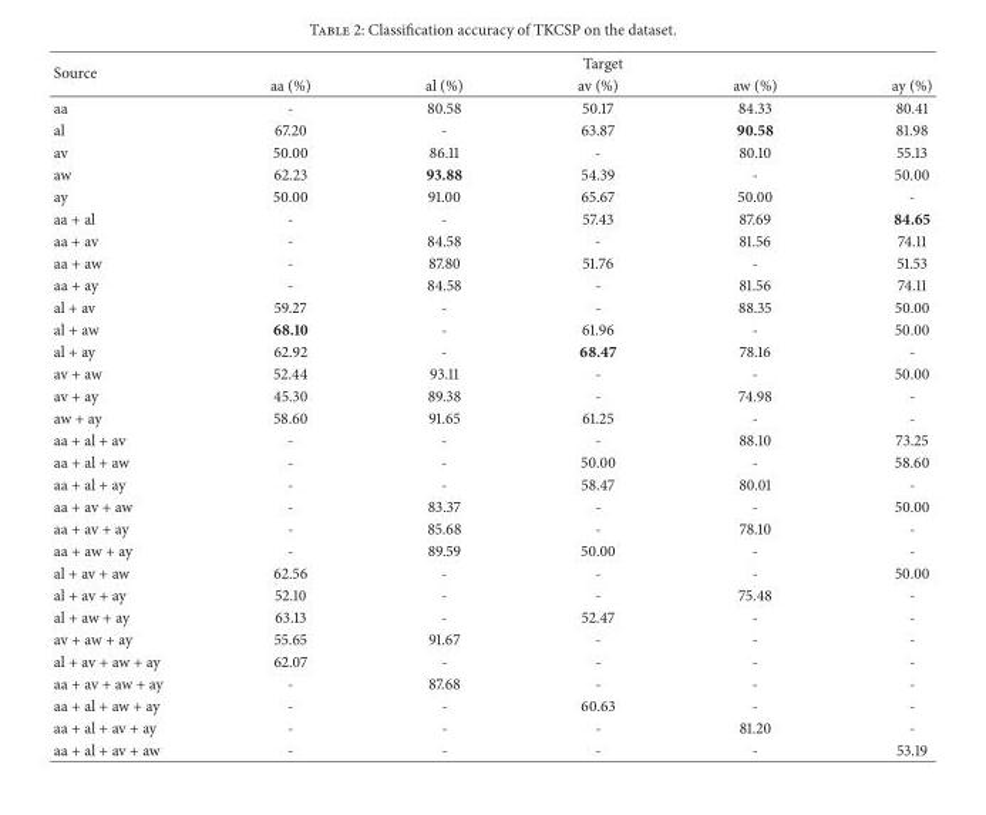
<table><thead><tr><td rowspan="2">Source</td><td colspan="5">Target</td></tr><tr><td>aa (%)</td><td>al (%)</td><td>av (%)</td><td>aw (%)</td><td>ay (%)</td></tr></thead><tbody><tr><td>aa</td><td>-</td><td>80.58</td><td>50.17</td><td>84.33</td><td>80.41</td></tr><tr><td>al</td><td>67.20</td><td>-</td><td>63.87</td><td>90.58</td><td>81.98</td></tr><tr><td>av</td><td>50.00</td><td>86.11</td><td>-</td><td>80.10</td><td>55.13</td></tr><tr><td>aw</td><td>62.23</td><td>93.88</td><td>54.39</td><td>-</td><td>50.00</td></tr><tr><td>ay</td><td>50.00</td><td>91.00</td><td>65.67</td><td>50.00</td><td>-</td></tr><tr><td>aa + al</td><td>-</td><td>-</td><td>57.43</td><td>87.69</td><td>84.65</td></tr><tr><td>aa + av</td><td>-</td><td>84.58</td><td>-</td><td>81.56</td><td>74.11</td></tr><tr><td>aa + aw</td><td>-</td><td>87.80</td><td>51.76</td><td>-</td><td>51.53</td></tr><tr><td>aa + ay</td><td>-</td><td>84.58</td><td>-</td><td>81.56</td><td>74.11</td></tr><tr><td>al + av</td><td>59.27</td><td>-</td><td>-</td><td>88.35</td><td>50.00</td></tr><tr><td>al + aw</td><td>68.10</td><td>-</td><td>61.96</td><td>-</td><td>50.00</td></tr><tr><td>al + ay</td><td>62.92</td><td>-</td><td>68.47</td><td>78.16</td><td>-</td></tr><tr><td>av + aw</td><td>52.44</td><td>93.11</td><td>-</td><td>-</td><td>50.00</td></tr><tr><td>av + ay</td><td>45.30</td><td>89.38</td><td>-</td><td>74.98</td><td>-</td></tr><tr><td>aw + ay</td><td>58.60</td><td>91.65</td><td>61.25</td><td>-</td><td>-</td></tr><tr><td>aa + al + av</td><td>-</td><td>-</td><td>-</td><td>88.10</td><td>73.25</td></tr><tr><td>aa + al + aw</td><td>-</td><td>-</td><td>50.00</td><td>-</td><td>58.60</td></tr><tr><td>aa + al + ay</td><td>-</td><td>-</td><td>58.47</td><td>80.01</td><td>-</td></tr><tr><td>aa + av + aw</td><td>-</td><td>83.37</td><td>-</td><td>-</td><td>50.00</td></tr><tr><td>aa + av + ay</td><td>-</td><td>85.68</td><td>-</td><td>78.10</td><td>-</td></tr><tr><td>aa + aw + ay</td><td>-</td><td>89.59</td><td>50.00</td><td>-</td><td>-</td></tr><tr><td>al + av + aw</td><td>62.56</td><td>-</td><td>-</td><td>-</td><td>50.00</td></tr><tr><td>al + av + ay</td><td>52.10</td><td>-</td><td>-</td><td>75.48</td><td>-</td></tr><tr><td>al + aw + ay</td><td>63.13</td><td>-</td><td>52.47</td><td>-</td><td>-</td></tr><tr><td>av + aw + ay</td><td>55.65</td><td>91.67</td><td>-</td><td>-</td><td>-</td></tr><tr><td>al + av + aw + ay</td><td>62.07</td><td>-</td><td>-</td><td>-</td><td>-</td></tr><tr><td>aa + av + aw + ay</td><td>-</td><td>87.68</td><td>-</td><td>-</td><td>-</td></tr><tr><td>aa + al + aw + ay</td><td>-</td><td>-</td><td>60.63</td><td>-</td><td>-</td></tr><tr><td>aa + al + av + ay</td><td>-</td><td>-</td><td>-</td><td>81.20</td><td>-</td></tr><tr><td>aa + al + av + aw</td><td>-</td><td>-</td><td>-</td><td>-</td><td>53.19</td></tr></tbody></table>